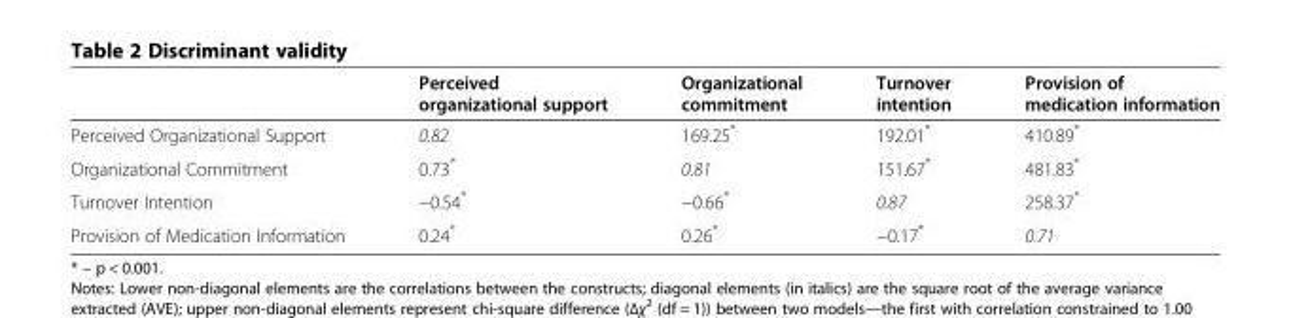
<table><thead><tr><td></td><td>Perceived organizational support</td><td>Organizational commitment</td><td>Turnover intention</td><td>Provision of medication information</td></tr></thead><tbody><tr><td>Perceived Organizational Support</td><td>0.82</td><td>169.25*</td><td>192.01*</td><td>410.89*</td></tr><tr><td>Organizational Commitment</td><td>0.73*</td><td>0.81</td><td>151.67*</td><td>481.83*</td></tr><tr><td>Turnover Intention</td><td>−0.54*</td><td>−0.66*</td><td>0.87</td><td>258.37*</td></tr><tr><td>Provision of Medication Information</td><td>0.24*</td><td>0.26*</td><td>−0.17*</td><td>0.71</td></tr></tbody></table>